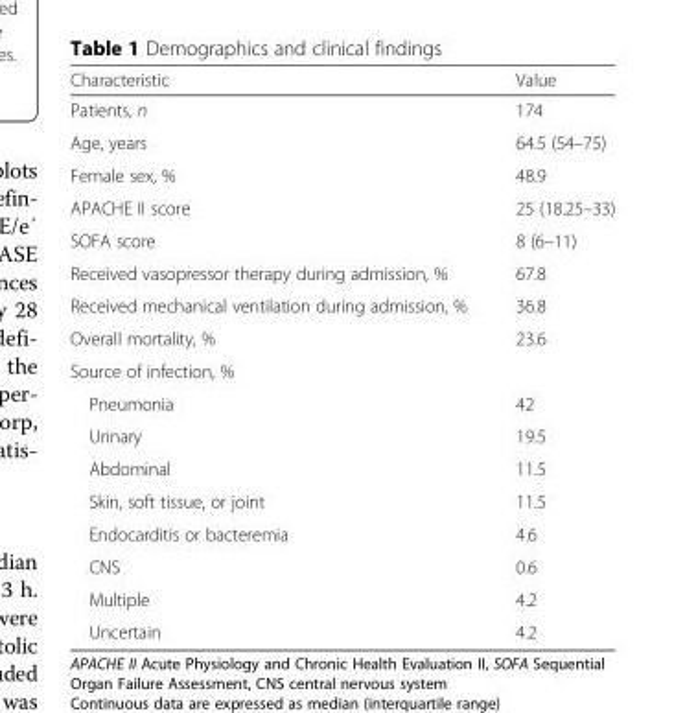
<table><thead><tr><td>Characteristic</td><td>Value</td></tr></thead><tbody><tr><td>Patients, n</td><td>174</td></tr><tr><td>Age, years</td><td>64.5 (54–75)</td></tr><tr><td>Female sex, %</td><td>48.9</td></tr><tr><td>APACHE II score</td><td>25 (18.25–33)</td></tr><tr><td>SOFA score</td><td>8 (6–11)</td></tr><tr><td>Received vasopressor therapy during admission, %</td><td>67.8</td></tr><tr><td>Received mechanical ventilation during admission, %</td><td>36.8</td></tr><tr><td>Overall mortality, %</td><td>23.6</td></tr><tr><td colspan="2">Source of infection, %</td></tr><tr><td>Pneumonia</td><td>42</td></tr><tr><td>Urinary</td><td>19.5</td></tr><tr><td>Abdominal</td><td>11.5</td></tr><tr><td>Skin, soft tissue, or joint</td><td>11.5</td></tr><tr><td>Endocarditis or bacteremia</td><td>4.6</td></tr><tr><td>CNS</td><td>0.6</td></tr><tr><td>Multiple</td><td>4.2</td></tr><tr><td>Uncertain</td><td>4.2</td></tr></tbody></table>